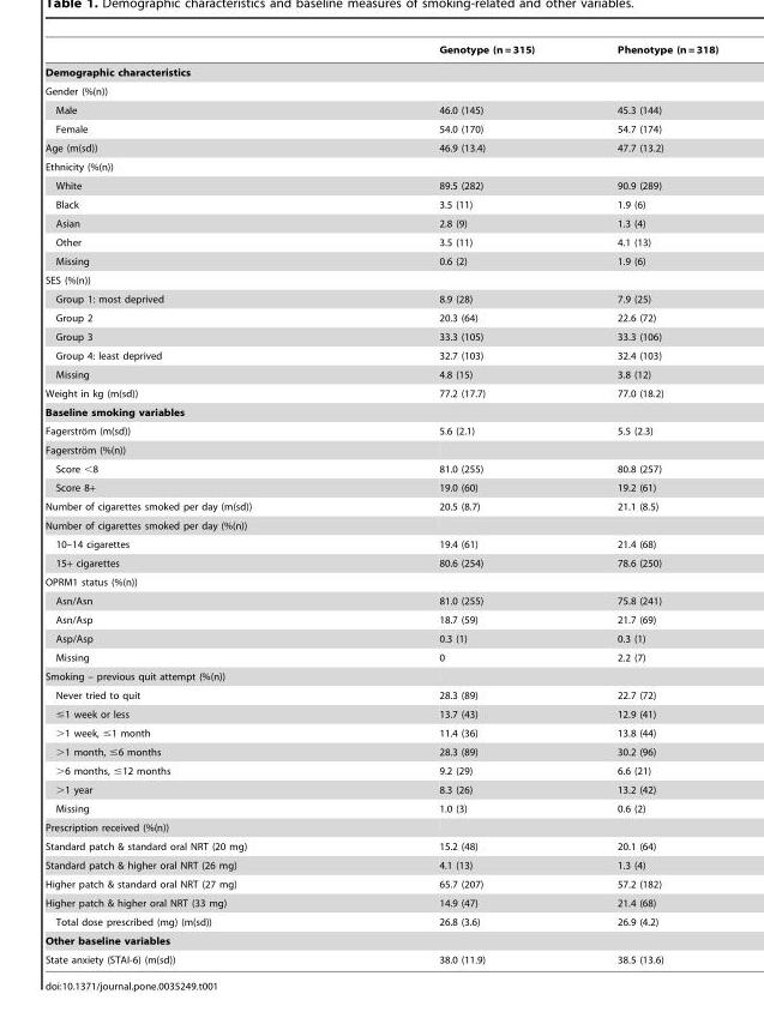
<table><thead><tr><td></td><td>Genotype (n = 315)</td><td>Phenotype (n = 318)</td></tr></thead><tbody><tr><td colspan="3">Demographic characteristics</td></tr><tr><td colspan="3">Gender (%(n))</td></tr><tr><td>Male</td><td>46.0 (145)</td><td>45.3 (144)</td></tr><tr><td>Female</td><td>54.0 (170)</td><td>54.7 (174)</td></tr><tr><td>Age (m(sd))</td><td>46.9 (13.4)</td><td>47.7 (13.2)</td></tr><tr><td colspan="3">Ethnicity (%(n))</td></tr><tr><td>White</td><td>89.5 (282)</td><td>90.9 (289)</td></tr><tr><td>Black</td><td>3.5 (11)</td><td>1.9 (6)</td></tr><tr><td>Asian</td><td>2.8 (9)</td><td>1.3 (4)</td></tr><tr><td>Other</td><td>3.5 (11)</td><td>4.1 (13)</td></tr><tr><td>Missing</td><td>0.6 (2)</td><td>1.9 (6)</td></tr><tr><td colspan="3">SES (%(n))</td></tr><tr><td>Group 1: most deprived</td><td>8.9 (28)</td><td>7.9 (25)</td></tr><tr><td>Group 2</td><td>20.3 (64)</td><td>22.6 (72)</td></tr><tr><td>Group 3</td><td>33.3 (105)</td><td>33.3 (106)</td></tr><tr><td>Group 4: least deprived</td><td>32.7 (103)</td><td>32.4 (103)</td></tr><tr><td>Missing</td><td>4.8 (15)</td><td>3.8 (12)</td></tr><tr><td>Weight in kg (m(sd))</td><td>77.2 (17.7)</td><td>77.0 (18.2)</td></tr><tr><td colspan="3">Baseline smoking variables</td></tr><tr><td>Fagerstro¨m (m(sd))</td><td>5.6 (2.1)</td><td>5.5 (2.3)</td></tr><tr><td colspan="3">Fagerstro¨m (%(n))</td></tr><tr><td>Score &lt;8</td><td>81.0 (255)</td><td>80.8 (257)</td></tr><tr><td>Score 8+</td><td>19.0 (60)</td><td>19.2 (61)</td></tr><tr><td>Number of cigarettes smoked per day (m(sd))</td><td>20.5 (8.7)</td><td>21.1 (8.5)</td></tr><tr><td colspan="3">Number of cigarettes smoked per day (%(n))</td></tr><tr><td>10–14 cigarettes</td><td>19.4 (61)</td><td>21.4 (68)</td></tr><tr><td>15+ cigarettes</td><td>80.6 (254)</td><td>78.6 (250)</td></tr><tr><td colspan="3">OPRM1 status (%(n))</td></tr><tr><td>Asn/Asn</td><td>81.0 (255)</td><td>75.8 (241)</td></tr><tr><td>Asn/Asp</td><td>18.7 (59)</td><td>21.7 (69)</td></tr><tr><td>Asp/Asp</td><td>0.3 (1)</td><td>0.3 (1)</td></tr><tr><td>Missing</td><td>0</td><td>2.2 (7)</td></tr><tr><td colspan="3">Smoking – previous quit attempt (%(n))</td></tr><tr><td>Never tried to quit</td><td>28.3 (89)</td><td>22.7 (72)</td></tr><tr><td>≤1 week or less</td><td>13.7 (43)</td><td>12.9 (41)</td></tr><tr><td>&gt;1 week, ≤1 month</td><td>11.4 (36)</td><td>13.8 (44)</td></tr><tr><td>&gt;1 month, ≤6 months</td><td>28.3 (89)</td><td>30.2 (96)</td></tr><tr><td>&gt;6 months, ≤12 months</td><td>9.2 (29)</td><td>6.6 (21)</td></tr><tr><td>&gt;1 year</td><td>8.3 (26)</td><td>13.2 (42)</td></tr><tr><td>Missing</td><td>1.0 (3)</td><td>0.6 (2)</td></tr><tr><td colspan="3">Prescription received (%(n))</td></tr><tr><td>Standard patch &amp; standard oral NRT (20 mg)</td><td>15.2 (48)</td><td>20.1 (64)</td></tr><tr><td>Standard patch &amp; higher oral NRT (26 mg)</td><td>4.1 (13)</td><td>1.3 (4)</td></tr><tr><td>Higher patch &amp; standard oral NRT (27 mg)</td><td>65.7 (207)</td><td>57.2 (182)</td></tr><tr><td>Higher patch &amp; higher oral NRT (33 mg)</td><td>14.9 (47)</td><td>21.4 (68)</td></tr><tr><td>Total dose prescribed (mg) (m(sd))</td><td>26.8 (3.6)</td><td>26.9 (4.2)</td></tr><tr><td colspan="3">Other baseline variables</td></tr><tr><td>State anxiety (STAI-6) (m(sd))</td><td>38.0 (11.9)</td><td>38.5 (13.6)</td></tr></tbody></table>